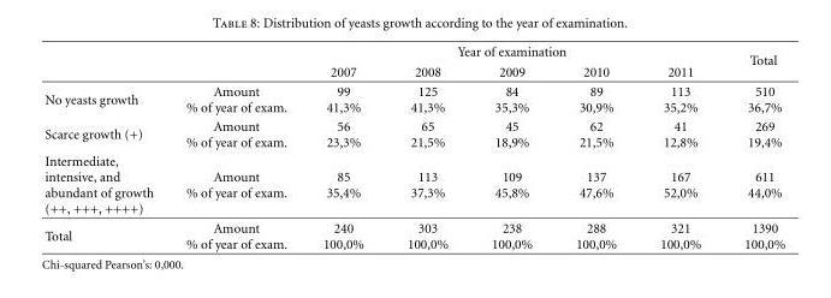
<table><thead><tr><td rowspan="2"></td><td rowspan="2"></td><td colspan="5">Year of examination</td><td rowspan="2">Total</td></tr><tr><td>2007</td><td>2008</td><td>2009</td><td>2010</td><td>2011</td></tr></thead><tbody><tr><td>No yeasts growth</td><td>Amount % of year of exam.</td><td>99 41,3%</td><td>125 41,3%</td><td>84 35,3%</td><td>89 30,9%</td><td>113 35,2%</td><td>510 36,7%</td></tr><tr><td>Scarce growth (+)</td><td>Amount % of year of exam.</td><td>56 23,3%</td><td>65 21,5%</td><td>45 18,9%</td><td>62 21,5%</td><td>41 12,8%</td><td>269 19,4%</td></tr><tr><td>Intermediate, intensive, and abundant of growth (++, +++, ++++)</td><td>Amount % of year of exam.</td><td>85 35,4%</td><td>113 37,3%</td><td>109 45,8%</td><td>137 47,6%</td><td>167 52,0%</td><td>611 44,0%</td></tr><tr><td>Total</td><td>Amount % of year of exam.</td><td>240 100,0%</td><td>303 100,0%</td><td>238 100,0%</td><td>288 100,0%</td><td>321 100,0%</td><td>1390 100,0%</td></tr></tbody></table>